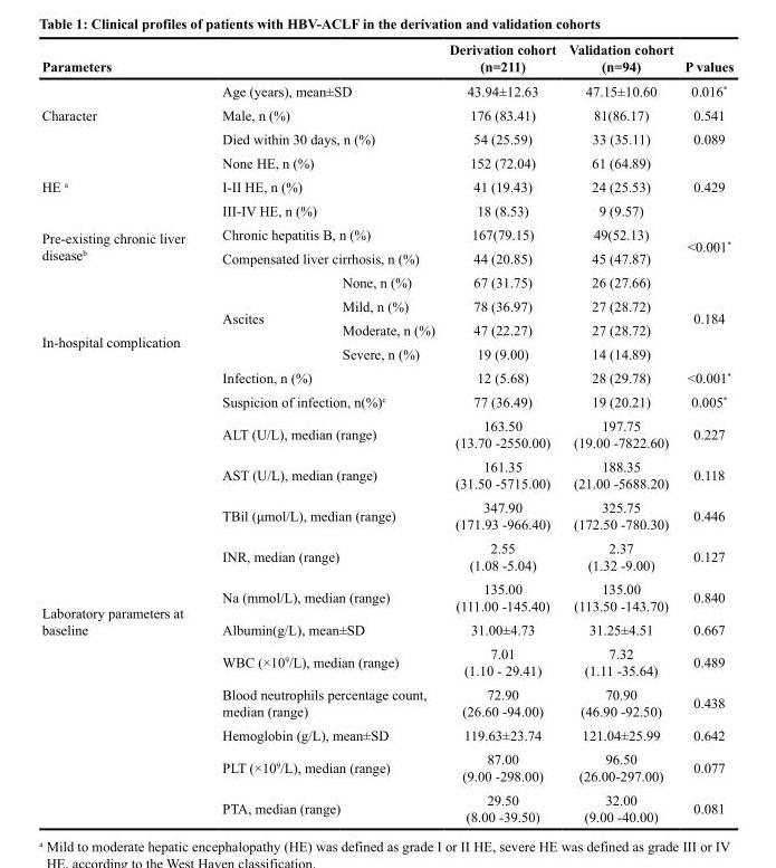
<table><thead><tr><td>Parameters</td><td></td><td></td><td>Derivation cohort (n=211)</td><td>Validation cohort (n=94)</td><td>P values</td></tr></thead><tbody><tr><td rowspan="3">Character</td><td colspan="2">Age (years), mean±SD</td><td>43.94±12.63</td><td>47.15±10.60</td><td>0.016*</td></tr><tr><td colspan="2">Male, n (%)</td><td>176 (83.41)</td><td>81(86.17)</td><td>0.541</td></tr><tr><td colspan="2">Died within 30 days, n (%)</td><td>54 (25.59)</td><td>33 (35.11)</td><td>0.089</td></tr><tr><td rowspan="3">HE <sup>a</sup></td><td colspan="2">None HE, n (%)</td><td>152 (72.04)</td><td>61 (64.89)</td><td rowspan="3">0.429</td></tr><tr><td colspan="2">I-II HE, n (%)</td><td>41 (19.43)</td><td>24 (25.53)</td></tr><tr><td colspan="2">III-IV HE, n (%)</td><td>18 (8.53)</td><td>9 (9.57)</td></tr><tr><td rowspan="2">Pre-existing chronic liver disease<sup>b</sup></td><td colspan="2">Chronic hepatitis B, n (%)</td><td>167(79.15)</td><td>49(52.13)</td><td rowspan="2">&lt;0.001*</td></tr><tr><td colspan="2">Compensated liver cirrhosis, n (%)</td><td>44 (20.85)</td><td>45 (47.87)</td></tr><tr><td rowspan="6">In-hospital complication</td><td rowspan="4">Ascites</td><td>None, n (%)</td><td>67 (31.75)</td><td>26 (27.66)</td><td rowspan="4">0.184</td></tr><tr><td>Mild, n (%)</td><td>78 (36.97)</td><td>27 (28.72)</td></tr><tr><td>Moderate, n (%)</td><td>47 (22.27)</td><td>27 (28.72)</td></tr><tr><td>Severe, n (%)</td><td>19 (9.00)</td><td>14 (14.89)</td></tr><tr><td colspan="2">Infection, n (%)</td><td>12 (5.68)</td><td>28 (29.78)</td><td>&lt;0.001*</td></tr><tr><td colspan="2">Suspicion of infection, n(%)<sup>c</sup></td><td>77 (36.49)</td><td>19 (20.21)</td><td>0.005*</td></tr><tr><td rowspan="11">Laboratory parameters at baseline</td><td colspan="2">ALT (U/L), median (range)</td><td>163.50 (13.70 -2550.00)</td><td>197.75 (19.00 -7822.60)</td><td>0.227</td></tr><tr><td colspan="2">AST (U/L), median (range)</td><td>161.35 (31.50 -5715.00)</td><td>188.35 (21.00 -5688.20)</td><td>0.118</td></tr><tr><td colspan="2">TBil (μmol/L), median (range)</td><td>347.90 (171.93 -966.40)</td><td>325.75 (172.50 -780.30)</td><td>0.446</td></tr><tr><td colspan="2">INR, median (range)</td><td>2.55 (1.08 -5.04)</td><td>2.37 (1.32 -9.00)</td><td>0.127</td></tr><tr><td colspan="2">Na (mmol/L), median (range)</td><td>135.00 (111.00 -145.40)</td><td>135.00 (113.50 -143.70)</td><td>0.840</td></tr><tr><td colspan="2">Albumin(g/L), mean±SD</td><td>31.00±4.73</td><td>31.25±4.51</td><td>0.667</td></tr><tr><td colspan="2">WBC (×10<sup>9</sup>/L), median (range)</td><td>7.01 (1.10 - 29.41)</td><td>7.32 (1.11 -35.64)</td><td>0.489</td></tr><tr><td colspan="2">Blood neutrophils percentage count, median (range)</td><td>72.90 (26.60 -94.00)</td><td>70.90 (46.90 -92.50)</td><td>0.438</td></tr><tr><td colspan="2">Hemoglobin (g/L), mean±SD</td><td>119.63±23.74</td><td>121.04±25.99</td><td>0.642</td></tr><tr><td colspan="2">PLT (×10<sup>9</sup>/L), median (range)</td><td>87.00 (9.00 -298.00)</td><td>96.50 (26.00-297.00)</td><td>0.077</td></tr><tr><td colspan="2">PTA, median (range)</td><td>29.50 (8.00 -39.50)</td><td>32.00 (9.00 -40.00)</td><td>0.081</td></tr></tbody></table>